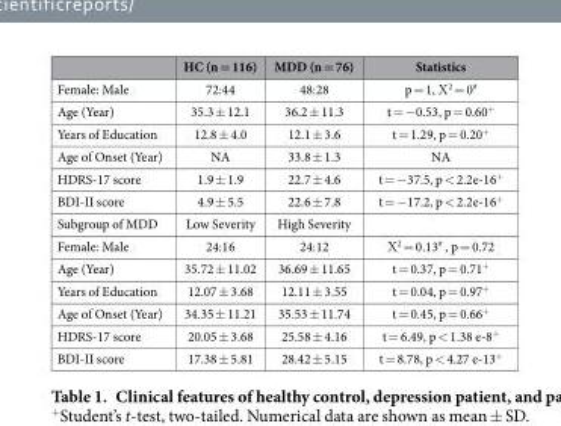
<table><thead><tr><td></td><td>HC (n = 116)</td><td>MDD (n = 76)</td><td>Statistics</td></tr></thead><tbody><tr><td>Female: Male</td><td>72:44</td><td>48:28</td><td>p = 1, Χ<sup>2</sup> = 0#</td></tr><tr><td>Age (Year)</td><td>35.3 ± 12.1</td><td>36.2 ± 11.3</td><td>t = −0.53, p = 0.60<sup>+</sup></td></tr><tr><td>Years of Education</td><td>12.8 ± 4.0</td><td>12.1 ± 3.6</td><td>t = 1.29, p = 0.20<sup>+</sup></td></tr><tr><td>Age of Onset (Year)</td><td>NA</td><td>33.8 ± 1.3</td><td>NA</td></tr><tr><td>HDRS-17 score</td><td>1.9 ± 1.9</td><td>22.7 ± 4.6</td><td>t = −37.5, p &lt; 2.2e-16<sup>+</sup></td></tr><tr><td>BDI-II score</td><td>4.9 ± 5.5</td><td>22.6 ± 7.8</td><td>t = −17.2, p &lt; 2.2e-16<sup>+</sup></td></tr><tr><td>Subgroup of MDD</td><td>Low Severity</td><td>High Severity</td><td></td></tr><tr><td>Female: Male</td><td>24:16</td><td>24:12</td><td>Χ<sup>2</sup> = 0.13# , p = 0.72</td></tr><tr><td>Age (Year)</td><td>35.72 ± 11.02</td><td>36.69 ± 11.65</td><td>t = 0.37, p = 0.71<sup>+</sup></td></tr><tr><td>Years of Education</td><td>12.07 ± 3.68</td><td>12.11 ± 3.55</td><td>t = 0.04, p = 0.97<sup>+</sup></td></tr><tr><td>Age of Onset (Year)</td><td>34.35 ± 11.21</td><td>35.53 ± 11.74</td><td>t = 0.45, p = 0.66<sup>+</sup></td></tr><tr><td>HDRS-17 score</td><td>20.05 ± 3.68</td><td>25.58 ± 4.16</td><td>t = 6.49, p &lt; 1.38 e-8<sup>+</sup></td></tr><tr><td>BDI-II score</td><td>17.38 ± 5.81</td><td>28.42 ± 5.15</td><td>t = 8.78, p &lt; 4.27 e-13<sup>+</sup></td></tr></tbody></table>